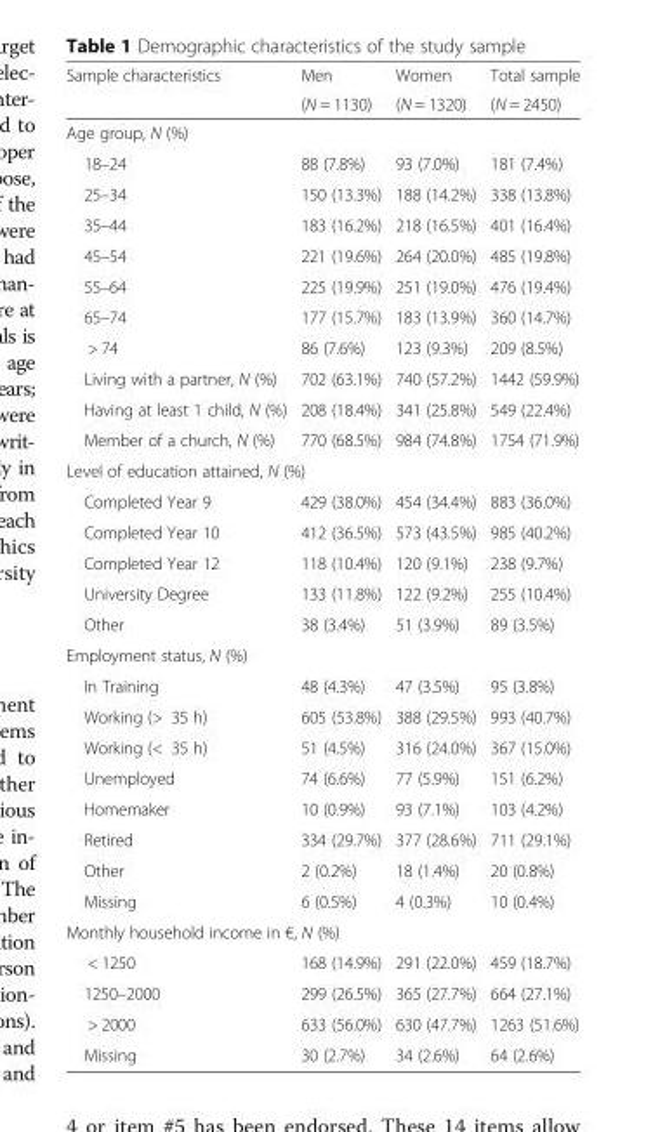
<table><thead><tr><td rowspan="2">Sample characteristics</td><td rowspan="2">Men (N = 1130)</td><td rowspan="2">Women (N = 1320)</td><td rowspan="2">Total sample (N = 2450)</td></tr><tr></tr></thead><tbody><tr><td colspan="4">Age group, N (%)</td></tr><tr><td>18–24</td><td>88 (7.8%)</td><td>93 (7.0%)</td><td>181 (7.4%)</td></tr><tr><td>25–34</td><td>150 (13.3%)</td><td>188 (14.2%)</td><td>338 (13.8%)</td></tr><tr><td>35–44</td><td>183 (16.2%)</td><td>218 (16.5%)</td><td>401 (16.4%)</td></tr><tr><td>45–54</td><td>221 (19.6%)</td><td>264 (20.0%)</td><td>485 (19.8%)</td></tr><tr><td>55–64</td><td>225 (19.9%)</td><td>251 (19.0%)</td><td>476 (19.4%)</td></tr><tr><td>65–74</td><td>177 (15.7%)</td><td>183 (13.9%)</td><td>360 (14.7%)</td></tr><tr><td>&gt; 74</td><td>86 (7.6%)</td><td>123 (9.3%)</td><td>209 (8.5%)</td></tr><tr><td>Living with a partner, N (%)</td><td>702 (63.1%)</td><td>740 (57.2%)</td><td>1442 (59.9%)</td></tr><tr><td>Having at least 1 child, N (%)</td><td>208 (18.4%)</td><td>341 (25.8%)</td><td>549 (22.4%)</td></tr><tr><td>Member of a church, N (%)</td><td>770 (68.5%)</td><td>984 (74.8%)</td><td>1754 (71.9%)</td></tr><tr><td colspan="4">Level of education attained, N (%)</td></tr><tr><td>Completed Year 9</td><td>429 (38.0%)</td><td>454 (34.4%)</td><td>883 (36.0%)</td></tr><tr><td>Completed Year 10</td><td>412 (36.5%)</td><td>573 (43.5%)</td><td>985 (40.2%)</td></tr><tr><td>Completed Year 12</td><td>118 (10.4%)</td><td>120 (9.1%)</td><td>238 (9.7%)</td></tr><tr><td>University Degree</td><td>133 (11.8%)</td><td>122 (9.2%)</td><td>255 (10.4%)</td></tr><tr><td>Other</td><td>38 (3.4%)</td><td>51 (3.9%)</td><td>89 (3.5%)</td></tr><tr><td colspan="4">Employment status, N (%)</td></tr><tr><td>In Training</td><td>48 (4.3%)</td><td>47 (3.5%)</td><td>95 (3.8%)</td></tr><tr><td>Working (&gt; 35 h)</td><td>605 (53.8%)</td><td>388 (29.5%)</td><td>993 (40.7%)</td></tr><tr><td>Working (&lt; 35 h)</td><td>51 (4.5%)</td><td>316 (24.0%)</td><td>367 (15.0%)</td></tr><tr><td>Unemployed</td><td>74 (6.6%)</td><td>77 (5.9%)</td><td>151 (6.2%)</td></tr><tr><td>Homemaker</td><td>10 (0.9%)</td><td>93 (7.1%)</td><td>103 (4.2%)</td></tr><tr><td>Retired</td><td>334 (29.7%)</td><td>377 (28.6%)</td><td>711 (29.1%)</td></tr><tr><td>Other</td><td>2 (0.2%)</td><td>18 (1.4%)</td><td>20 (0.8%)</td></tr><tr><td>Missing</td><td>6 (0.5%)</td><td>4 (0.3%)</td><td>10 (0.4%)</td></tr><tr><td colspan="4">Monthly household income in €, N (%)</td></tr><tr><td>&lt; 1250</td><td>168 (14.9%)</td><td>291 (22.0%)</td><td>459 (18.7%)</td></tr><tr><td>1250–2000</td><td>299 (26.5%)</td><td>365 (27.7%)</td><td>664 (27.1%)</td></tr><tr><td>&gt; 2000</td><td>633 (56.0%)</td><td>630 (47.7%)</td><td>1263 (51.6%)</td></tr><tr><td>Missing</td><td>30 (2.7%)</td><td>34 (2.6%)</td><td>64 (2.6%)</td></tr></tbody></table>